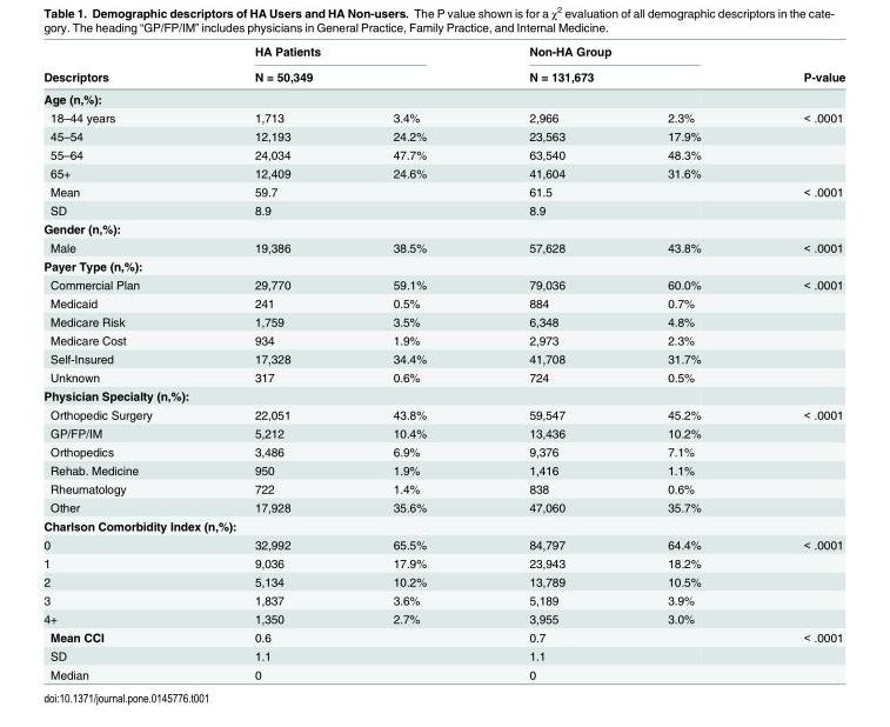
<table><thead><tr><td rowspan="3">Descriptors Age (n,%):</td><td rowspan="2" colspan="2">HA Patients N = 50,349</td><td rowspan="2" colspan="2">Non-HA Group N = 131,673</td><td rowspan="3">P-value</td></tr><tr></tr><tr><td></td><td></td><td></td><td></td></tr></thead><tbody><tr><td>18–44 years</td><td>1,713</td><td>3.4%</td><td>2,966</td><td>2.3%</td><td>&lt; .0001</td></tr><tr><td>45–54</td><td>12,193</td><td>24.2%</td><td>23,563</td><td>17.9%</td><td></td></tr><tr><td>55–64</td><td>24,034</td><td>47.7%</td><td>63,540</td><td>48.3%</td><td></td></tr><tr><td>65+</td><td>12,409</td><td>24.6%</td><td>41,604</td><td>31.6%</td><td></td></tr><tr><td>Mean</td><td>59.7</td><td></td><td>61.5</td><td></td><td>&lt; .0001</td></tr><tr><td>SD</td><td>8.9</td><td></td><td>8.9</td><td></td><td></td></tr><tr><td colspan="6">Gender (n,%):</td></tr><tr><td>Male</td><td>19,386</td><td>38.5%</td><td>57,628</td><td>43.8%</td><td>&lt; .0001</td></tr><tr><td colspan="6">Payer Type (n,%):</td></tr><tr><td>Commercial Plan</td><td>29,770</td><td>59.1%</td><td>79,036</td><td>60.0%</td><td>&lt; .0001</td></tr><tr><td>Medicaid</td><td>241</td><td>0.5%</td><td>884</td><td>0.7%</td><td></td></tr><tr><td>Medicare Risk</td><td>1,759</td><td>3.5%</td><td>6,348</td><td>4.8%</td><td></td></tr><tr><td>Medicare Cost</td><td>934</td><td>1.9%</td><td>2,973</td><td>2.3%</td><td></td></tr><tr><td>Self-Insured</td><td>17,328</td><td>34.4%</td><td>41,708</td><td>31.7%</td><td></td></tr><tr><td>Unknown</td><td>317</td><td>0.6%</td><td>724</td><td>0.5%</td><td></td></tr><tr><td colspan="6">Physician Specialty (n,%):</td></tr><tr><td>Orthopedic Surgery</td><td>22,051</td><td>43.8%</td><td>59,547</td><td>45.2%</td><td>&lt; .0001</td></tr><tr><td>GP/FP/IM</td><td>5,212</td><td>10.4%</td><td>13,436</td><td>10.2%</td><td></td></tr><tr><td>Orthopedics</td><td>3,486</td><td>6.9%</td><td>9,376</td><td>7.1%</td><td></td></tr><tr><td>Rehab. Medicine</td><td>950</td><td>1.9%</td><td>1,416</td><td>1.1%</td><td></td></tr><tr><td>Rheumatology</td><td>722</td><td>1.4%</td><td>838</td><td>0.6%</td><td></td></tr><tr><td>Other</td><td>17,928</td><td>35.6%</td><td>47,060</td><td>35.7%</td><td></td></tr><tr><td colspan="6">Charlson Comorbidity Index (n,%):</td></tr><tr><td>0</td><td>32,992</td><td>65.5%</td><td>84,797</td><td>64.4%</td><td>&lt; .0001</td></tr><tr><td>1</td><td>9,036</td><td>17.9%</td><td>23,943</td><td>18.2%</td><td></td></tr><tr><td>2</td><td>5,134</td><td>10.2%</td><td>13,789</td><td>10.5%</td><td></td></tr><tr><td>3</td><td>1,837</td><td>3.6%</td><td>5,189</td><td>3.9%</td><td></td></tr><tr><td>4+</td><td>1,350</td><td>2.7%</td><td>3,955</td><td>3.0%</td><td></td></tr><tr><td>Mean CCI</td><td>0.6</td><td></td><td>0.7</td><td></td><td>&lt; .0001</td></tr><tr><td>SD</td><td>1.1</td><td></td><td>1.1</td><td></td><td></td></tr><tr><td>Median</td><td>0</td><td></td><td>0</td><td></td><td></td></tr></tbody></table>